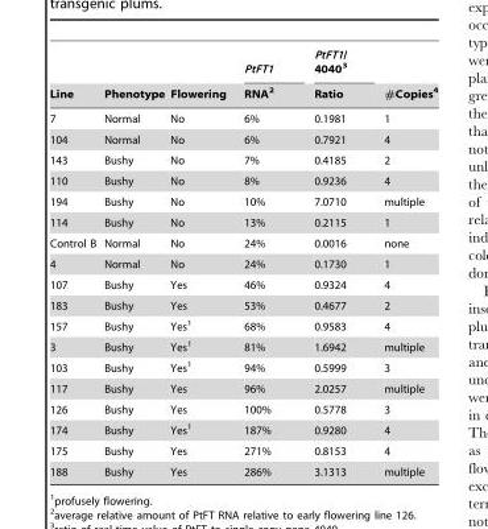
<table><thead><tr><td rowspan="2">Line</td><td rowspan="2">Phenotype</td><td rowspan="2">Flowering</td><td rowspan="2">PtFT1 RNA<sup>2</sup></td><td rowspan="2">PtFT1/ 4040<sup>3</sup> Ratio</td><td rowspan="2">#Copies<sup>4</sup></td></tr><tr></tr></thead><tbody><tr><td>7</td><td>Normal</td><td>No</td><td>6%</td><td>0.1981</td><td>1</td></tr><tr><td>104</td><td>Normal</td><td>No</td><td>6%</td><td>0.7921</td><td>4</td></tr><tr><td>143</td><td>Bushy</td><td>No</td><td>7%</td><td>0.4185</td><td>2</td></tr><tr><td>110</td><td>Bushy</td><td>No</td><td>8%</td><td>0.9236</td><td>4</td></tr><tr><td>194</td><td>Bushy</td><td>No</td><td>10%</td><td>7.0710</td><td>multiple</td></tr><tr><td>114</td><td>Bushy</td><td>No</td><td>13%</td><td>0.2115</td><td>1</td></tr><tr><td>Control B</td><td>Normal</td><td>No</td><td>24%</td><td>0.0016</td><td>none</td></tr><tr><td>4</td><td>Normal</td><td>No</td><td>24%</td><td>0.1730</td><td>1</td></tr><tr><td>107</td><td>Bushy</td><td>Yes</td><td>46%</td><td>0.9324</td><td>4</td></tr><tr><td>183</td><td>Bushy</td><td>Yes</td><td>53%</td><td>0.4677</td><td>2</td></tr><tr><td>157</td><td>Bushy</td><td>Yes<sup>1</sup></td><td>68%</td><td>0.9583</td><td>4</td></tr><tr><td>3</td><td>Bushy</td><td>Yes<sup>1</sup></td><td>81%</td><td>1.6942</td><td>multiple</td></tr><tr><td>103</td><td>Bushy</td><td>Yes<sup>1</sup></td><td>94%</td><td>0.5999</td><td>3</td></tr><tr><td>117</td><td>Bushy</td><td>Yes</td><td>96%</td><td>2.0257</td><td>multiple</td></tr><tr><td>126</td><td>Bushy</td><td>Yes</td><td>100%</td><td>0.5778</td><td>3</td></tr><tr><td>174</td><td>Bushy</td><td>Yes<sup>1</sup></td><td>187%</td><td>0.9280</td><td>4</td></tr><tr><td>175</td><td>Bushy</td><td>Yes</td><td>271%</td><td>0.8153</td><td>4</td></tr><tr><td>188</td><td>Bushy</td><td>Yes</td><td>286%</td><td>3.1313</td><td>multiple</td></tr></tbody></table>